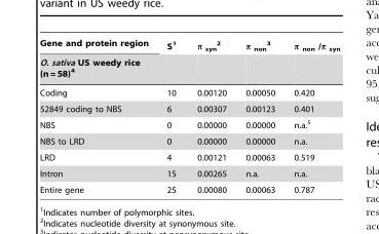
<table><thead><tr><td rowspan="2">Gene and protein region O. sativa US weedy rice (n = 58)<sup>4</sup></td><td rowspan="2">S<sup>1</sup></td><td rowspan="2">π <sub>syn</sub> 2</td><td rowspan="2">π <sub>non</sub> 3</td><td rowspan="2">π <sub>non</sub> /π <sub>syn</sub></td></tr><tr></tr></thead><tbody><tr><td>Coding</td><td>10</td><td>0.00120</td><td>0.00050</td><td>0.420</td></tr><tr><td>52849 coding to NBS</td><td>6</td><td>0.00307</td><td>0.00123</td><td>0.401</td></tr><tr><td>NBS</td><td>0</td><td>0.00000</td><td>0.00000</td><td>n.a.<sup>5</sup></td></tr><tr><td>NBS to LRD</td><td>0</td><td>0.00000</td><td>0.00000</td><td>n.a.</td></tr><tr><td>LRD</td><td>4</td><td>0.00121</td><td>0.00063</td><td>0.519</td></tr><tr><td>Intron</td><td>15</td><td>0.00265</td><td>n.a.</td><td>n.a.</td></tr><tr><td>Entire gene</td><td>25</td><td>0.00080</td><td>0.00063</td><td>0.787</td></tr></tbody></table>